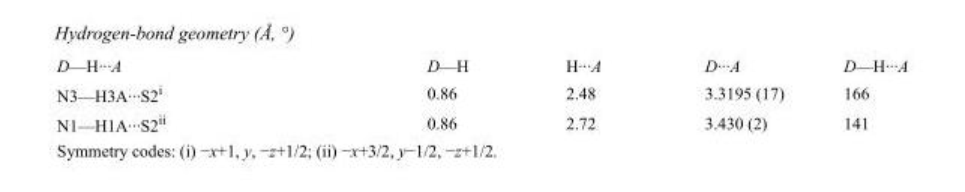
<table><tbody><tr><td>D—H···A</td><td>D—H</td><td>H···A</td><td>D···A</td><td>D—H···A</td></tr><tr><td>N3—H3A···S2<sup>i</sup></td><td>0.86</td><td>2.48</td><td>3.3195 (17)</td><td>166</td></tr><tr><td>N1—H1A···S2<sup>ii</sup></td><td>0.86</td><td>2.72</td><td>3.430 (2)</td><td>141</td></tr></tbody></table>